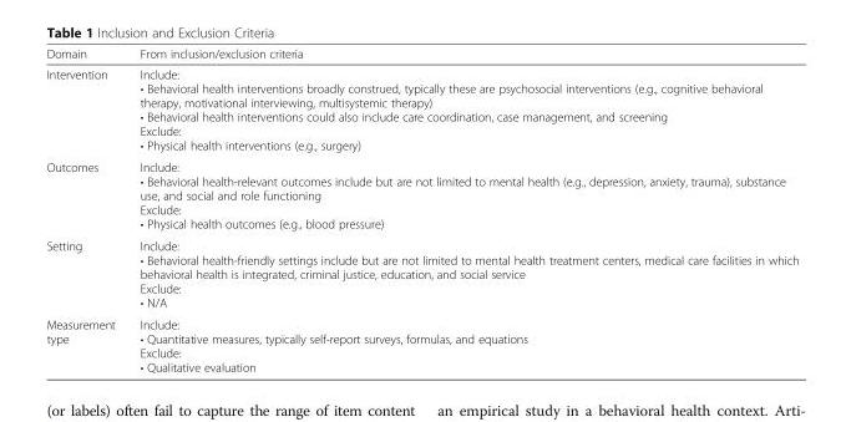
<table><thead><tr><td>Domain</td><td>From inclusion/exclusion criteria</td></tr></thead><tbody><tr><td>Intervention</td><td>Include: • Behavioral health interventions broadly construed, typically these are psychosocial interventions (e.g., cognitive behavioral therapy, motivational interviewing, multisystemic therapy) • Behavioral health interventions could also include care coordination, case management, and screening Exclude: • Physical health interventions (e.g., surgery)</td></tr><tr><td>Outcomes</td><td>Include: • Behavioral health-relevant outcomes include but are not limited to mental health (e.g., depression, anxiety, trauma), substance use, and social and role functioning Exclude: • Physical health outcomes (e.g., blood pressure)</td></tr><tr><td>Setting</td><td>Include: • Behavioral health-friendly settings include but are not limited to mental health treatment centers, medical care facilities in which behavioral health is integrated, criminal justice, education, and social service Exclude: • N/A</td></tr><tr><td>Measurement type</td><td>Include: • Quantitative measures, typically self-report surveys, formulas, and equations Exclude: • Qualitative evaluation</td></tr></tbody></table>